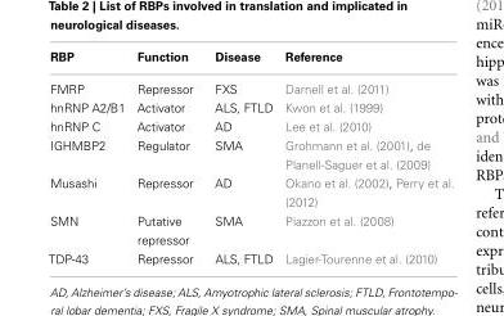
<table><thead><tr><td>RBP</td><td>Function</td><td>Disease</td><td>Reference</td></tr></thead><tbody><tr><td>FMRP</td><td>Repressor</td><td>FXS</td><td>Darnell et al. (2011)</td></tr><tr><td>hnRNP A2/B1</td><td>Activator</td><td>ALS, FTLD</td><td>Kwon et al. (1999)</td></tr><tr><td>hnRNP C</td><td>Activator</td><td>AD</td><td>Lee et al. (2010)</td></tr><tr><td>IGHMBP2</td><td>Regulator</td><td>SMA</td><td>Grohmann et al. (2001), de Planell-Saguer et al. (2009)</td></tr><tr><td>Musashi</td><td>Repressor</td><td>AD</td><td>Okano et al. (2002), Perry et al. (2012)</td></tr><tr><td>SMN</td><td>Putative repressor</td><td>SMA</td><td>Piazzon et al. (2008)</td></tr><tr><td>TDP-43</td><td>Repressor</td><td>ALS, FTLD</td><td>Lagier-Tourenne et al. (2010)</td></tr></tbody></table>